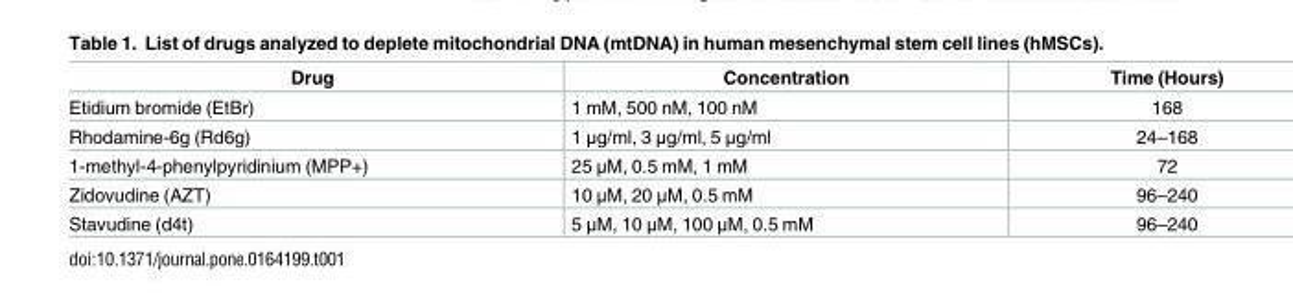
<table><thead><tr><td>Drug</td><td>Concentration</td><td>Time (Hours)</td></tr></thead><tbody><tr><td>Etidium bromide (EtBr)</td><td>1 mM, 500 nM, 100 nM</td><td>168</td></tr><tr><td>Rhodamine-6g (Rd6g)</td><td>1 μg/ml, 3 μg/ml, 5 μg/ml</td><td>24–168</td></tr><tr><td>1-methyl-4-phenylpyridinium (MPP+)</td><td>25 μM, 0.5 mM, 1 mM</td><td>72</td></tr><tr><td>Zidovudine (AZT)</td><td>10 μM, 20 μM, 0.5 mM</td><td>96–240</td></tr><tr><td>Stavudine (d4t)</td><td>5 μM, 10 μM, 100 μM, 0.5 mM</td><td>96–240</td></tr></tbody></table>